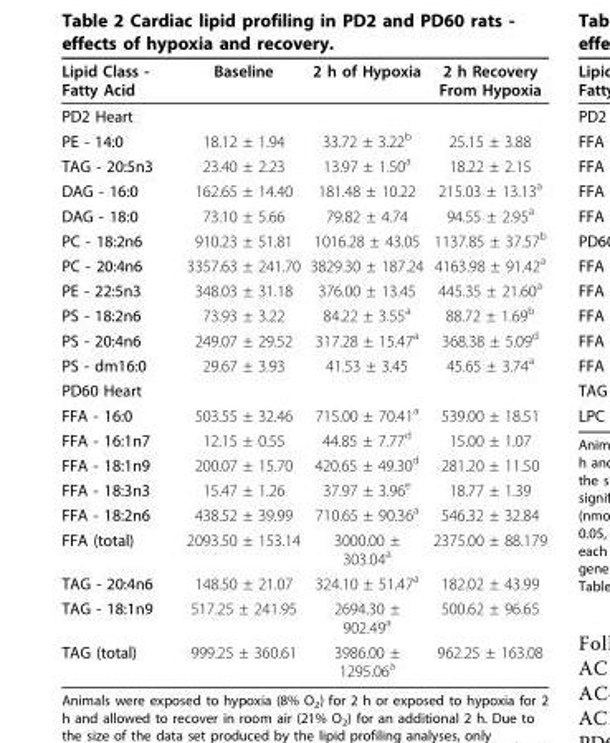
<table><thead><tr><td>Lipid Class - Fatty Acid</td><td>Baseline</td><td>2 h of Hypoxia</td><td>2 h Recovery From Hypoxia</td></tr></thead><tbody><tr><td colspan="4">PD2 Heart</td></tr><tr><td>PE - 14:0</td><td>18.12 ± 1.94</td><td>33.72 ± 3.22b</td><td>25.15 ± 3.88</td></tr><tr><td>TAG - 20:5n3</td><td>23.40 ± 2.23</td><td>13.97 ± 1.50<sup>a</sup></td><td>18.22 ± 2.15</td></tr><tr><td>DAG - 16:0</td><td>162.65 ± 14.40</td><td>181.48 ± 10.22</td><td>215.03 ± 13.13<sup>a</sup></td></tr><tr><td>DAG - 18:0</td><td>73.10 ± 5.66</td><td>79.82 ± 4.74</td><td>94.55 ± 2.95<sup>a</sup></td></tr><tr><td>PC - 18:2n6</td><td>910.23 ± 51.81</td><td>1016.28 ± 43.05</td><td>1137.85 ± 37.57<sup>b</sup></td></tr><tr><td>PC - 20:4n6</td><td>3357.63 ± 241.70</td><td>3829.30 ± 187.24</td><td>4163.98 ± 91.42<sup>a</sup></td></tr><tr><td>PE - 22:5n3</td><td>348.03 ± 31.18</td><td>376.00 ± 13.45</td><td>445.35 ± 21.60<sup>a</sup></td></tr><tr><td>PS - 18:2n6</td><td>73.93 ± 3.22</td><td>84.22 ± 3.55<sup>a</sup></td><td>88.72 ± 1.69<sup>b</sup></td></tr><tr><td>PS - 20:4n6</td><td>249.07 ± 29.52</td><td>317.28 ± 15.47<sup>a</sup></td><td>368.38 ± 5.09<sup>d</sup></td></tr><tr><td>PS - dm16:0</td><td>29.67 ± 3.93</td><td>41.53 ± 3.45</td><td>45.65 ± 3.74<sup>a</sup></td></tr><tr><td colspan="4">PD60 Heart</td></tr><tr><td>FFA - 16:0</td><td>503.55 ± 32.46</td><td>715.00 ± 70.41<sup>a</sup></td><td>539.00 ± 18.51</td></tr><tr><td>FFA - 16:1n7</td><td>12.15 ± 0.55</td><td>44.85 ± 7.77<sup>d</sup></td><td>15.00 ± 1.07</td></tr><tr><td>FFA - 18:1n9</td><td>200.07 ± 15.70</td><td>420.65 ± 49.30<sup>d</sup></td><td>281.20 ± 11.50</td></tr><tr><td>FFA - 18:3n3</td><td>15.47 ± 1.26</td><td>37.97 ± 3.96<sup>e</sup></td><td>18.77 ± 1.39</td></tr><tr><td>FFA - 18:2n6</td><td>438.52 ± 39.99</td><td>710.65 ± 90.36<sup>a</sup></td><td>546.32 ± 32.84</td></tr><tr><td>FFA (total)</td><td>2093.50 ± 153.14</td><td>3000.00 ± 303.04<sup>a</sup></td><td>2375.00 ± 88.179</td></tr><tr><td>TAG - 20:4n6</td><td>148.50 ± 21.07</td><td>324.10 ± 51.47<sup>a</sup></td><td>182.02 ± 43.99</td></tr><tr><td>TAG - 18:1n9</td><td>517.25 ± 241.95</td><td>2694.30 ± 902.49<sup>a</sup></td><td>500.62 ± 96.65</td></tr><tr><td>TAG (total)</td><td>999.25 ± 360.61</td><td>3986.00 ± 1295.06<sup>a</sup></td><td>962.25 ± 163.08</td></tr></tbody></table>